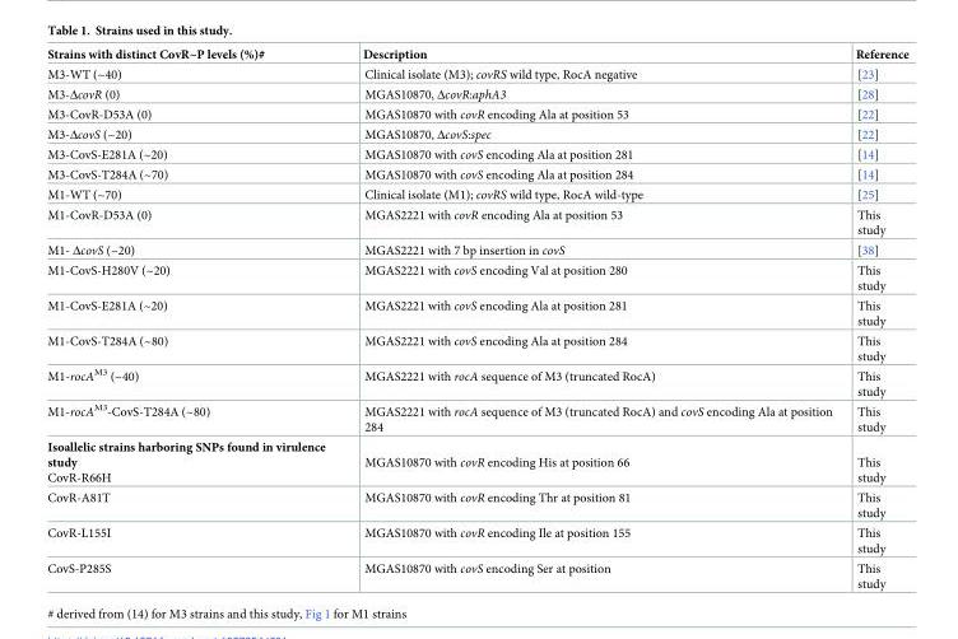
<table><thead><tr><td>Strains with distinct CovR~P levels (%)#</td><td>Description</td><td>Reference</td></tr></thead><tbody><tr><td>M3-WT (~40)</td><td>Clinical isolate (M3); covRS wild type, RocA negative</td><td>[23]</td></tr><tr><td>M3-ΔcovR (0)</td><td>MGAS10870, ΔcovR:aphA3</td><td>[28]</td></tr><tr><td>M3-CovR-D53A (0)</td><td>MGAS10870 with covR encoding Ala at position 53</td><td>[22]</td></tr><tr><td>M3-ΔcovS (~20)</td><td>MGAS10870, ΔcovS:spec</td><td>[22]</td></tr><tr><td>M3-CovS-E281A (~20)</td><td>MGAS10870 with covS encoding Ala at position 281</td><td>[14]</td></tr><tr><td>M3-CovS-T284A (~70)</td><td>MGAS10870 with covS encoding Ala at position 284</td><td>[14]</td></tr><tr><td>M1-WT (~70)</td><td>Clinical isolate (M1); covRS wild type, RocA wild-type</td><td>[25]</td></tr><tr><td>M1-CovR-D53A (0)</td><td>MGAS2221 with covR encoding Ala at position 53</td><td>This study</td></tr><tr><td>M1- ΔcovS (~20)</td><td>MGAS2221 with 7 bp insertion in covS</td><td>[38]</td></tr><tr><td>M1-CovS-H280V (~20)</td><td>MGAS2221 with covS encoding Val at position 280</td><td>This study</td></tr><tr><td>M1-CovS-E281A (~20)</td><td>MGAS2221 with covS encoding Ala at position 281</td><td>This study</td></tr><tr><td>M1-CovS-T284A (~80)</td><td>MGAS2221 with covS encoding Ala at position 284</td><td>This study</td></tr><tr><td>M1-rocA<sup>M3</sup> (~40)</td><td>MGAS2221 with rocA sequence of M3 (truncated RocA)</td><td>This study</td></tr><tr><td>M1-rocA<sup>M3</sup>-CovS-T284A (~80)</td><td>MGAS2221 with rocA sequence of M3 (truncated RocA) and covS encoding Ala at position 284</td><td>This study</td></tr><tr><td>Isoallelic strains harboring SNPs found in virulence study CovR-R66H</td><td>MGAS10870 with covR encoding His at position 66</td><td>This study</td></tr><tr><td>CovR-A81T</td><td>MGAS10870 with covR encoding Thr at position 81</td><td>This study</td></tr><tr><td>CovR-L155I</td><td>MGAS10870 with covR encoding Ile at position 155</td><td>This study</td></tr><tr><td>CovS-P285S</td><td>MGAS10870 with covS encoding Ser at position</td><td>This study</td></tr></tbody></table>